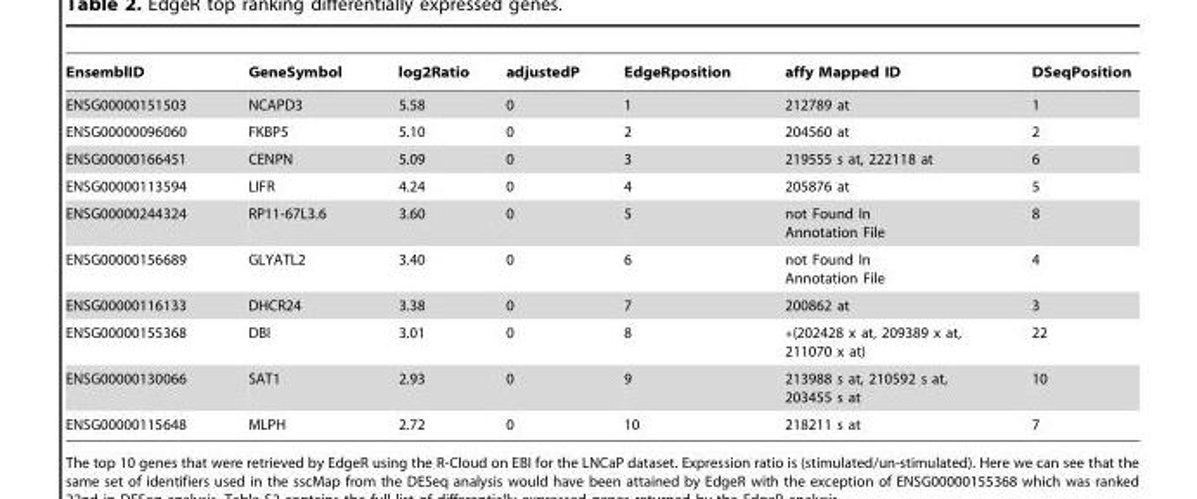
<table><thead><tr><td>EnsemblID</td><td>GeneSymbol</td><td>log2Ratio</td><td>adjustedP</td><td>EdgeRposition</td><td>affy Mapped ID</td><td>DSeqPosition</td></tr></thead><tbody><tr><td>ENSG00000151503</td><td>NCAPD3</td><td>5.58</td><td>0</td><td>1</td><td>212789 at</td><td>1</td></tr><tr><td>ENSG00000096060</td><td>FKBP5</td><td>5.10</td><td>0</td><td>2</td><td>204560 at</td><td>2</td></tr><tr><td>ENSG00000166451</td><td>CENPN</td><td>5.09</td><td>0</td><td>3</td><td>219555 s at, 222118 at</td><td>6</td></tr><tr><td>ENSG00000113594</td><td>LIFR</td><td>4.24</td><td>0</td><td>4</td><td>205876 at</td><td>5</td></tr><tr><td>ENSG00000244324</td><td>RP11-67L3.6</td><td>3.60</td><td>0</td><td>5</td><td>not Found In Annotation File</td><td>8</td></tr><tr><td>ENSG00000156689</td><td>GLYATL2</td><td>3.40</td><td>0</td><td>6</td><td>not Found In Annotation File</td><td>4</td></tr><tr><td>ENSG00000116133</td><td>DHCR24</td><td>3.38</td><td>0</td><td>7</td><td>200862 at</td><td>3</td></tr><tr><td>ENSG00000155368</td><td>DBI</td><td>3.01</td><td>0</td><td>8</td><td>�(202428 x at, 209389 x at, 211070 x at)</td><td>22</td></tr><tr><td>ENSG00000130066</td><td>SAT1</td><td>2.93</td><td>0</td><td>9</td><td>213988 s at, 210592 s at, 203455 s at</td><td>10</td></tr><tr><td>ENSG00000115648</td><td>MLPH</td><td>2.72</td><td>0</td><td>10</td><td>218211 s at</td><td>7</td></tr></tbody></table>